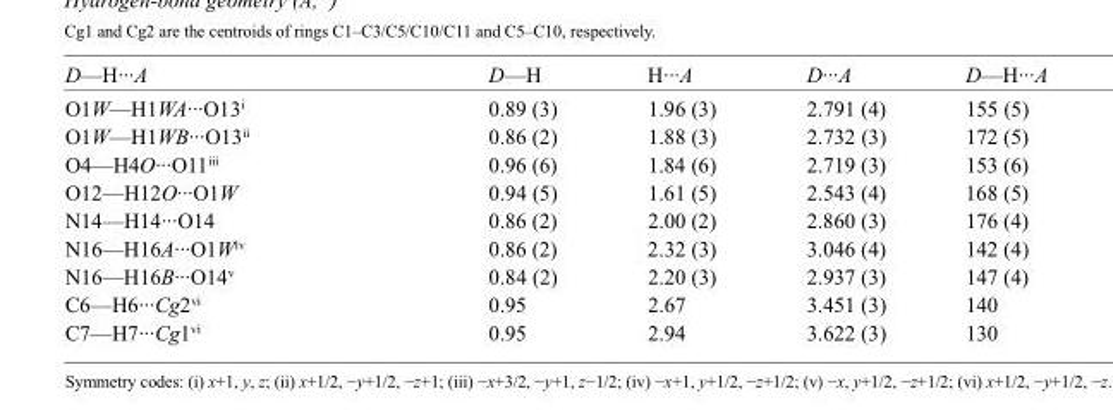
<table><tbody><tr><td>D—H···A</td><td>D—H</td><td>H···A</td><td>D···A</td><td>D—H···A</td></tr><tr><td>O1W—H1WA···O13<sup>i</sup></td><td>0.89 (3)</td><td>1.96 (3)</td><td>2.791 (4)</td><td>155 (5)</td></tr><tr><td>O1W—H1WB···O13<sup>ii</sup></td><td>0.86 (2)</td><td>1.88 (3)</td><td>2.732 (3)</td><td>172 (5)</td></tr><tr><td>O4—H4O···O11<sup>iii</sup></td><td>0.96 (6)</td><td>1.84 (6)</td><td>2.719 (3)</td><td>153 (6)</td></tr><tr><td>O12—H12O···O1W</td><td>0.94 (5)</td><td>1.61 (5)</td><td>2.543 (4)</td><td>168 (5)</td></tr><tr><td>N14—H14···O14</td><td>0.86 (2)</td><td>2.00 (2)</td><td>2.860 (3)</td><td>176 (4)</td></tr><tr><td>N16—H16A···O1W<sup>iv</sup></td><td>0.86 (2)</td><td>2.32 (3)</td><td>3.046 (4)</td><td>142 (4)</td></tr><tr><td>N16—H16B···O14<sup>v</sup></td><td>0.84 (2)</td><td>2.20 (3)</td><td>2.937 (3)</td><td>147 (4)</td></tr><tr><td>C6—H6···Cg2<sup>vi</sup></td><td>0.95</td><td>2.67</td><td>3.451 (3)</td><td>140</td></tr><tr><td>C7—H7···Cg1<sup>vi</sup></td><td>0.95</td><td>2.94</td><td>3.622 (3)</td><td>130</td></tr></tbody></table>